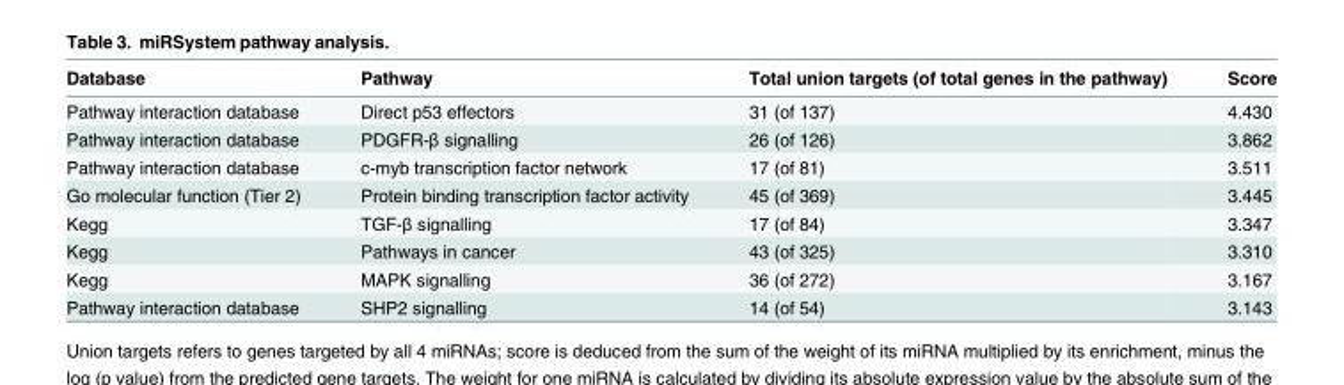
<table><thead><tr><td>Database</td><td>Pathway</td><td>Total union targets (of total genes in the pathway)</td><td>Score</td></tr></thead><tbody><tr><td>Pathway interaction database</td><td>Direct p53 effectors</td><td>31 (of 137)</td><td>4.430</td></tr><tr><td>Pathway interaction database</td><td>PDGFR-β signalling</td><td>26 (of 126)</td><td>3.862</td></tr><tr><td>Pathway interaction database</td><td>c-myb transcription factor network</td><td>17 (of 81)</td><td>3.511</td></tr><tr><td>Go molecular function (Tier 2)</td><td>Protein binding transcription factor activity</td><td>45 (of 369)</td><td>3.445</td></tr><tr><td>Kegg</td><td>TGF-β signalling</td><td>17 (of 84)</td><td>3.347</td></tr><tr><td>Kegg</td><td>Pathways in cancer</td><td>43 (of 325)</td><td>3.310</td></tr><tr><td>Kegg</td><td>MAPK signalling</td><td>36 (of 272)</td><td>3.167</td></tr><tr><td>Pathway interaction database</td><td>SHP2 signalling</td><td>14 (of 54)</td><td>3.143</td></tr></tbody></table>